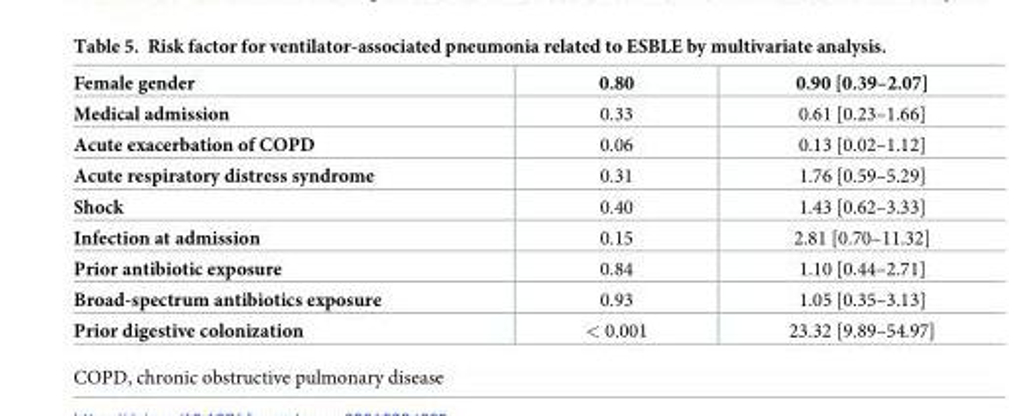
<table><thead><tr><td>Female gender</td><td>0.80</td><td>0.90 [0.39–2.07]</td></tr></thead><tbody><tr><td>Medical admission</td><td>0.33</td><td>0.61 [0.23–1.66]</td></tr><tr><td>Acute exacerbation of COPD</td><td>0.06</td><td>0.13 [0.02–1.12]</td></tr><tr><td>Acute respiratory distress syndrome</td><td>0.31</td><td>1.76 [0.59–5.29]</td></tr><tr><td>Shock</td><td>0.40</td><td>1.43 [0.62–3.33]</td></tr><tr><td>Infection at admission</td><td>0.15</td><td>2.81 [0.70–11.32]</td></tr><tr><td>Prior antibiotic exposure</td><td>0.84</td><td>1.10 [0.44–2.71]</td></tr><tr><td>Broad-spectrum antibiotics exposure</td><td>0.93</td><td>1.05 [0.35–3.13]</td></tr><tr><td>Prior digestive colonization</td><td>&lt; 0.001</td><td>23.32 [9.89–54.97]</td></tr></tbody></table>